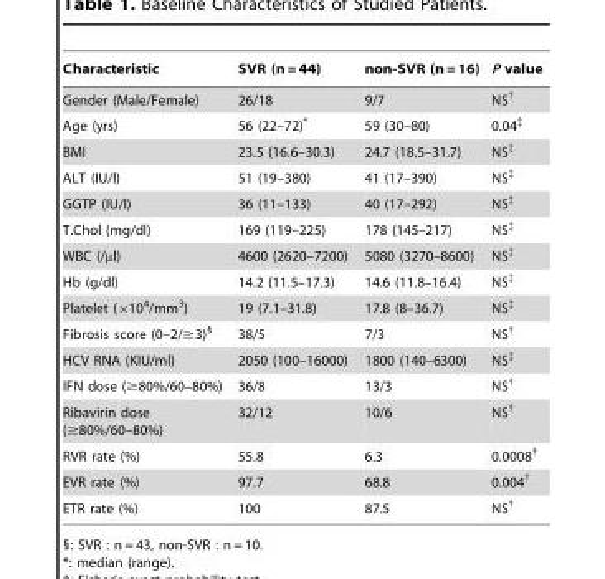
<table><thead><tr><td>Characteristic</td><td>SVR (n = 44)</td><td>non-SVR (n = 16)</td><td>P value</td></tr></thead><tbody><tr><td>Gender (Male/Female)</td><td>26/18</td><td>9/7</td><td>NS†</td></tr><tr><td>Age (yrs)</td><td>56 (22–72)*</td><td>59 (30–80)</td><td>0.04‡</td></tr><tr><td>BMI</td><td>23.5 (16.6–30.3)</td><td>24.7 (18.5–31.7)</td><td>NS‡</td></tr><tr><td>ALT (IU/l)</td><td>51 (19–380)</td><td>41 (17–390)</td><td>NS‡</td></tr><tr><td>GGTP (IU/l)</td><td>36 (11–133)</td><td>40 (17–292)</td><td>NS‡</td></tr><tr><td>T.Chol (mg/dl)</td><td>169 (119–225)</td><td>178 (145–217)</td><td>NS‡</td></tr><tr><td>WBC (/µl)</td><td>4600 (2620–7200)</td><td>5080 (3270–8600)</td><td>NS‡</td></tr><tr><td>Hb (g/dl)</td><td>14.2 (11.5–17.3)</td><td>14.6 (11.8–16.4)</td><td>NS‡</td></tr><tr><td>Platelet (×10<sup>4</sup>/mm<sup>3</sup>)</td><td>19 (7.1–31.8)</td><td>17.8 (8–36.7)</td><td>NS‡</td></tr><tr><td>Fibrosis score (0–2/≥3)§</td><td>38/5</td><td>7/3</td><td>NS†</td></tr><tr><td>HCV RNA (KIU/ml)</td><td>2050 (100–16000)</td><td>1800 (140–6300)</td><td>NS‡</td></tr><tr><td>IFN dose (≥80%/60–80%)</td><td>36/8</td><td>13/3</td><td>NS†</td></tr><tr><td>Ribavirin dose (≥80%/60–80%)</td><td>32/12</td><td>10/6</td><td>NS†</td></tr><tr><td>RVR rate (%)</td><td>55.8</td><td>6.3</td><td>0.0008†</td></tr><tr><td>EVR rate (%)</td><td>97.7</td><td>68.8</td><td>0.004†</td></tr><tr><td>ETR rate (%)</td><td>100</td><td>87.5</td><td>NS†</td></tr></tbody></table>